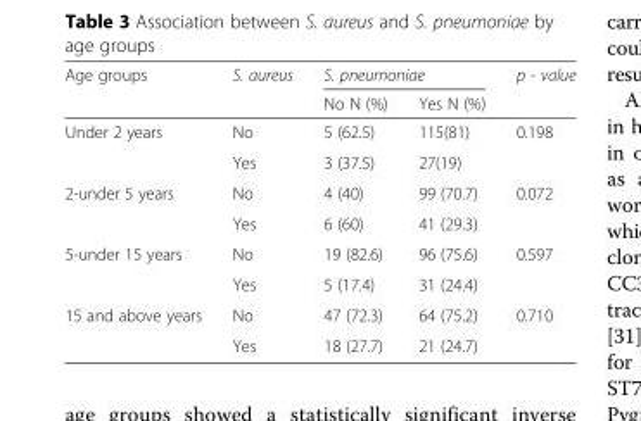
<table><thead><tr><td rowspan="2">Age groups</td><td rowspan="2">S. aureus</td><td colspan="2">S. pneumoniae</td><td rowspan="2">p - value</td></tr><tr><td>No N (%)</td><td>Yes N (%)</td></tr></thead><tbody><tr><td rowspan="2">Under 2 years</td><td>No</td><td>5 (62.5)</td><td>115(81)</td><td>0.198</td></tr><tr><td>Yes</td><td>3 (37.5)</td><td>27(19)</td><td></td></tr><tr><td rowspan="2">2-under 5 years</td><td>No</td><td>4 (40)</td><td>99 (70.7)</td><td>0.072</td></tr><tr><td>Yes</td><td>6 (60)</td><td>41 (29.3)</td><td></td></tr><tr><td rowspan="2">5-under 15 years</td><td>No</td><td>19 (82.6)</td><td>96 (75.6)</td><td>0.597</td></tr><tr><td>Yes</td><td>5 (17.4)</td><td>31 (24.4)</td><td></td></tr><tr><td rowspan="2">15 and above years</td><td>No</td><td>47 (72.3)</td><td>64 (75.2)</td><td>0.710</td></tr><tr><td>Yes</td><td>18 (27.7)</td><td>21 (24.7)</td><td></td></tr></tbody></table>